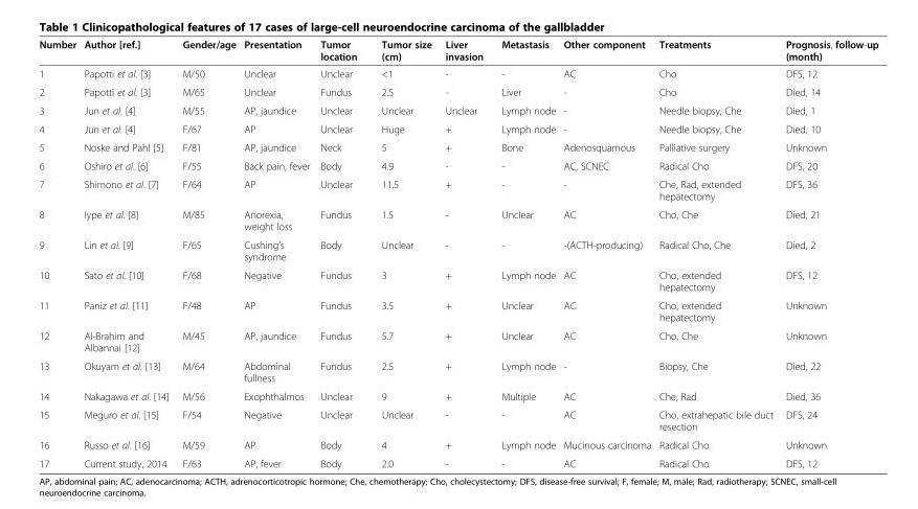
<table><thead><tr><td>Number</td><td>Author [ref.]</td><td>Gender/age</td><td>Presentation</td><td>Tumor location</td><td>Tumor size (cm)</td><td>Liver invasion</td><td>Metastasis</td><td>Other component</td><td>Treatments</td><td>Prognosis, follow-up (month)</td></tr></thead><tbody><tr><td>1</td><td>Papotti et al. [3]</td><td>M/50</td><td>Unclear</td><td>Unclear</td><td>&lt;1</td><td>-</td><td>-</td><td>AC</td><td>Cho</td><td>DFS, 12</td></tr><tr><td>2</td><td>Papotti et al. [3]</td><td>M/65</td><td>Unclear</td><td>Fundus</td><td>2.5</td><td>-</td><td>Liver</td><td>-</td><td>Cho</td><td>Died, 14</td></tr><tr><td>3</td><td>Jun et al. [4]</td><td>M/55</td><td>AP, jaundice</td><td>Unclear</td><td>Unclear</td><td>Unclear</td><td>Lymph node</td><td>-</td><td>Needle biopsy, Che</td><td>Died, 1</td></tr><tr><td>4</td><td>Jun et al. [4]</td><td>F/67</td><td>AP</td><td>Unclear</td><td>Huge</td><td>+</td><td>Lymph node</td><td>-</td><td>Needle biopsy, Che</td><td>Died, 10</td></tr><tr><td>5</td><td>Noske and Pahl [5]</td><td>F/81</td><td>AP, jaundice</td><td>Neck</td><td>5</td><td>+</td><td>Bone</td><td>Adenosquamous</td><td>Palliative surgery</td><td>Unknown</td></tr><tr><td>6</td><td>Oshiro et al. [6]</td><td>F/55</td><td>Back pain, fever</td><td>Body</td><td>4.9</td><td>-</td><td>-</td><td>AC, SCNEC</td><td>Radical Cho</td><td>DFS, 20</td></tr><tr><td>7</td><td>Shimono et al. [7]</td><td>F/64</td><td>AP</td><td>Unclear</td><td>11.5</td><td>+</td><td>-</td><td>-</td><td>Che, Rad, extended hepatectomy</td><td>DFS, 36</td></tr><tr><td>8</td><td>Iype et al. [8]</td><td>M/85</td><td>Anorexia, weight loss</td><td>Fundus</td><td>1.5</td><td>-</td><td>Unclear</td><td>AC</td><td>Cho, Che</td><td>Died, 21</td></tr><tr><td>9</td><td>Lin et al. [9]</td><td>F/65</td><td>Cushing’s syndrome</td><td>Body</td><td>Unclear</td><td>-</td><td>-</td><td>-(ACTH-producing)</td><td>Radical Cho, Che</td><td>Died, 2</td></tr><tr><td>10</td><td>Sato et al. [10]</td><td>F/68</td><td>Negative</td><td>Fundus</td><td>3</td><td>+</td><td>Lymph node</td><td>AC</td><td>Cho, extended hepatectomy</td><td>DFS, 12</td></tr><tr><td>11</td><td>Paniz et al. [11]</td><td>F/48</td><td>AP</td><td>Fundus</td><td>3.5</td><td>+</td><td>Unclear</td><td>AC</td><td>Cho, extended hepatectomy</td><td>Unknown</td></tr><tr><td>12</td><td>Al-Brahim and Albannai [12]</td><td>M/45</td><td>AP, jaundice</td><td>Fundus</td><td>5.7</td><td>+</td><td>Unclear</td><td>AC</td><td>Cho, Che</td><td>Unknown</td></tr><tr><td>13</td><td>Okuyam et al. [13]</td><td>M/64</td><td>Abdominal fullness</td><td>Fundus</td><td>2.5</td><td>+</td><td>Lymph node</td><td>-</td><td>Biopsy, Che</td><td>Died, 22</td></tr><tr><td>14</td><td>Nakagawa et al. [14]</td><td>M/56</td><td>Exophthalmos</td><td>Unclear</td><td>9</td><td>+</td><td>Multiple</td><td>AC</td><td>Che, Rad</td><td>Died, 36</td></tr><tr><td>15</td><td>Meguro et al. [15]</td><td>F/54</td><td>Negative</td><td>Unclear</td><td>Unclear</td><td>-</td><td>-</td><td>AC</td><td>Cho, extrahepatic bile duct resection</td><td>DFS, 24</td></tr><tr><td>16</td><td>Russo et al. [16]</td><td>M/59</td><td>AP</td><td>Body</td><td>4</td><td>+</td><td>Lymph node</td><td>Mucinous carcinoma</td><td>Radical Cho</td><td>Unknown</td></tr><tr><td>17</td><td>Current study, 2014</td><td>F/63</td><td>AP, fever</td><td>Body</td><td>2.0</td><td>-</td><td>-</td><td>AC</td><td>Radical Cho</td><td>DFS, 12</td></tr></tbody></table>